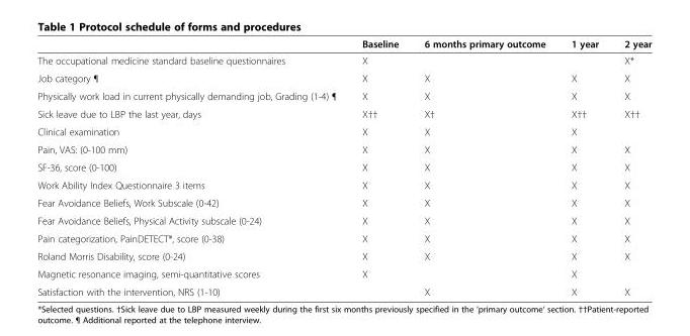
<table><thead><tr><td></td><td>Baseline</td><td>6 months primary outcome</td><td>1 year</td><td>2 year</td></tr></thead><tbody><tr><td>The occupational medicine standard baseline questionnaires</td><td>X</td><td></td><td></td><td>X*</td></tr><tr><td>Job category ¶</td><td>X</td><td>X</td><td>X</td><td>X</td></tr><tr><td>Physically work load in current physically demanding job, Grading (1-4) ¶</td><td>X</td><td>X</td><td>X</td><td>X</td></tr><tr><td>Sick leave due to LBP the last year, days</td><td>X††</td><td>X†</td><td>X††</td><td>X††</td></tr><tr><td>Clinical examination</td><td>X</td><td>X</td><td>X</td><td></td></tr><tr><td>Pain, VAS: (0-100 mm)</td><td>X</td><td>X</td><td>X</td><td>X</td></tr><tr><td>SF-36, score (0-100)</td><td>X</td><td>X</td><td>X</td><td>X</td></tr><tr><td>Work Ability Index Questionnaire 3 items</td><td>X</td><td>X</td><td>X</td><td>X</td></tr><tr><td>Fear Avoidance Beliefs, Work Subscale (0-42)</td><td>X</td><td>X</td><td>X</td><td>X</td></tr><tr><td>Fear Avoidance Beliefs, Physical Activity subscale (0-24)</td><td>X</td><td>X</td><td>X</td><td>X</td></tr><tr><td>Pain categorization, PainDETECT®, score (0-38)</td><td>X</td><td>X</td><td>X</td><td>X</td></tr><tr><td>Roland Morris Disability, score (0-24)</td><td>X</td><td>X</td><td>X</td><td>X</td></tr><tr><td>Magnetic resonance imaging, semi-quantitative scores</td><td>X</td><td></td><td>X</td><td></td></tr><tr><td>Satisfaction with the intervention, NRS (1-10)</td><td></td><td>X</td><td>X</td><td>X</td></tr></tbody></table>